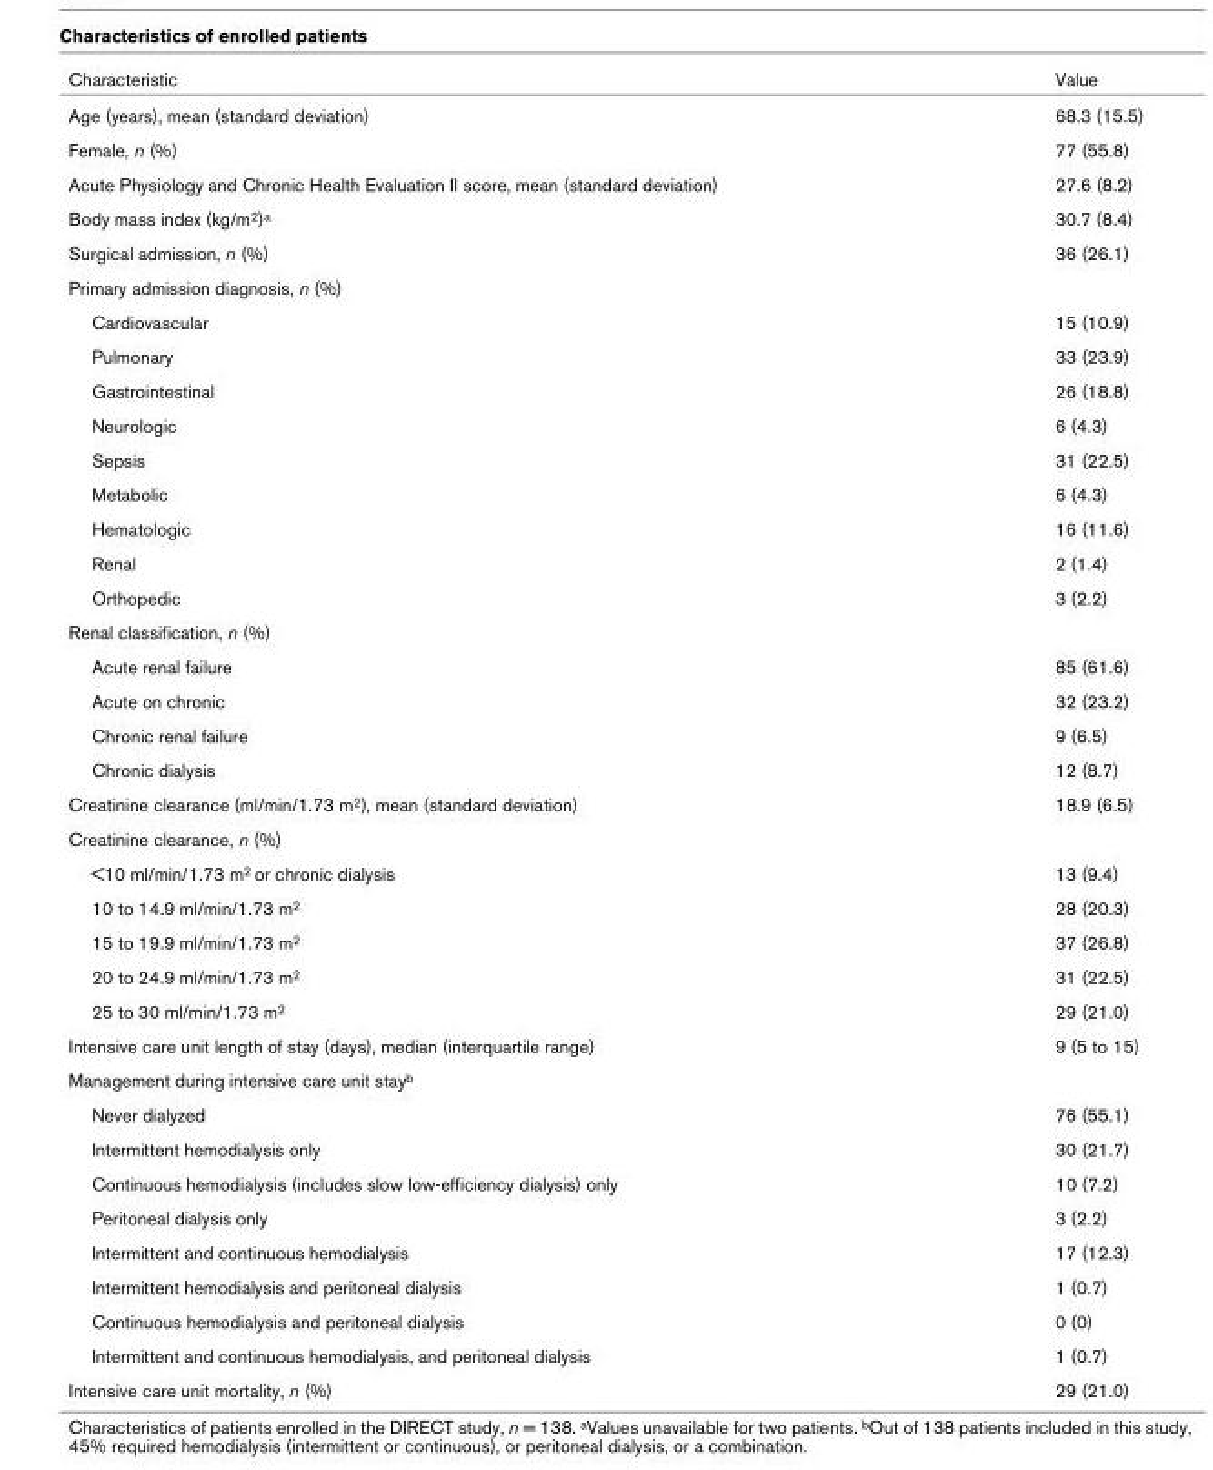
<table><thead><tr><td>Characteristic</td><td>Value</td></tr></thead><tbody><tr><td>Age (years), mean (standard deviation)</td><td>68.3 (15.5)</td></tr><tr><td>Female, n (%)</td><td>77 (55.8)</td></tr><tr><td>Acute Physiology and Chronic Health Evaluation II score, mean (standard deviation)</td><td>27.6 (8.2)</td></tr><tr><td>Body mass index (kg/m<sup>2</sup>)<sup>a</sup></td><td>30.7 (8.4)</td></tr><tr><td>Surgical admission, n (%)</td><td>36 (26.1)</td></tr><tr><td colspan="2">Primary admission diagnosis, n (%)</td></tr><tr><td>Cardiovascular</td><td>15 (10.9)</td></tr><tr><td>Pulmonary</td><td>33 (23.9)</td></tr><tr><td>Gastrointestinal</td><td>26 (18.8)</td></tr><tr><td>Neurologic</td><td>6 (4.3)</td></tr><tr><td>Sepsis</td><td>31 (22.5)</td></tr><tr><td>Metabolic</td><td>6 (4.3)</td></tr><tr><td>Hematologic</td><td>16 (11.6)</td></tr><tr><td>Renal</td><td>2 (1.4)</td></tr><tr><td>Orthopedic</td><td>3 (2.2)</td></tr><tr><td colspan="2">Renal classification, n (%)</td></tr><tr><td>Acute renal failure</td><td>85 (61.6)</td></tr><tr><td>Acute on chronic</td><td>32 (23.2)</td></tr><tr><td>Chronic renal failure</td><td>9 (6.5)</td></tr><tr><td>Chronic dialysis</td><td>12 (8.7)</td></tr><tr><td>Creatinine clearance (ml/min/1.73 m<sup>2</sup>), mean (standard deviation)</td><td>18.9 (6.5)</td></tr><tr><td colspan="2">Creatinine clearance, n (%)</td></tr><tr><td>&lt;10 ml/min/1.73 m<sup>2</sup> or chronic dialysis</td><td>13 (9.4)</td></tr><tr><td>10 to 14.9 ml/min/1.73 m<sup>2</sup></td><td>28 (20.3)</td></tr><tr><td>15 to 19.9 ml/min/1.73 m<sup>2</sup></td><td>37 (26.8)</td></tr><tr><td>20 to 24.9 ml/min/1.73 m<sup>2</sup></td><td>31 (22.5)</td></tr><tr><td>25 to 30 ml/min/1.73 m<sup>2</sup></td><td>29 (21.0)</td></tr><tr><td>Intensive care unit length of stay (days), median (interquartile range)</td><td>9 (5 to 15)</td></tr><tr><td colspan="2">Management during intensive care unit stay<sup>b</sup></td></tr><tr><td>Never dialyzed</td><td>76 (55.1)</td></tr><tr><td>Intermittent hemodialysis only</td><td>30 (21.7)</td></tr><tr><td>Continuous hemodialysis (includes slow low-efficiency dialysis) only</td><td>10 (7.2)</td></tr><tr><td>Peritoneal dialysis only</td><td>3 (2.2)</td></tr><tr><td>Intermittent and continuous hemodialysis</td><td>17 (12.3)</td></tr><tr><td>Intermittent hemodialysis and peritoneal dialysis</td><td>1 (0.7)</td></tr><tr><td>Continuous hemodialysis and peritoneal dialysis</td><td>0 (0)</td></tr><tr><td>Intermittent and continuous hemodialysis, and peritoneal dialysis</td><td>1 (0.7)</td></tr><tr><td>Intensive care unit mortality, n (%)</td><td>29 (21.0)</td></tr></tbody></table>